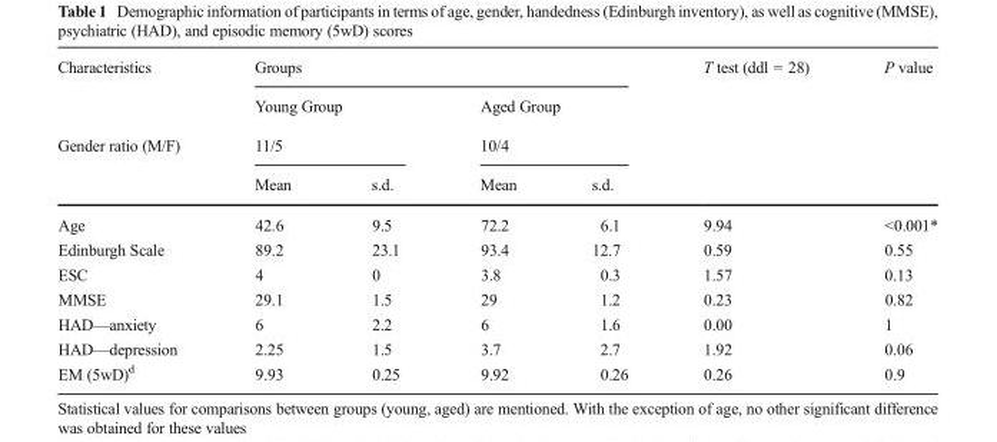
<table><thead><tr><td rowspan="4">Characteristics Gender ratio (M/F)</td><td colspan="4">Groups</td><td rowspan="4">T test (ddl = 28)</td><td rowspan="4">P value</td></tr><tr><td rowspan="2" colspan="2">Young Group 11/5</td><td rowspan="2" colspan="2">Aged Group 10/4</td></tr><tr></tr><tr><td>Mean</td><td>s.d.</td><td>Mean</td><td>s.d.</td></tr></thead><tbody><tr><td>Age</td><td>42.6</td><td>9.5</td><td>72.2</td><td>6.1</td><td>9.94</td><td>&lt;0.001*</td></tr><tr><td>Edinburgh Scale</td><td>89.2</td><td>23.1</td><td>93.4</td><td>12.7</td><td>0.59</td><td>0.55</td></tr><tr><td>ESC</td><td>4</td><td>0</td><td>3.8</td><td>0.3</td><td>1.57</td><td>0.13</td></tr><tr><td>MMSE</td><td>29.1</td><td>1.5</td><td>29</td><td>1.2</td><td>0.23</td><td>0.82</td></tr><tr><td>HAD—anxiety</td><td>6</td><td>2.2</td><td>6</td><td>1.6</td><td>0.00</td><td>1</td></tr><tr><td>HAD—depression</td><td>2.25</td><td>1.5</td><td>3.7</td><td>2.7</td><td>1.92</td><td>0.06</td></tr><tr><td>EM (5wD)<sup>d</sup></td><td>9.93</td><td>0.25</td><td>9.92</td><td>0.26</td><td>0.26</td><td>0.9</td></tr></tbody></table>